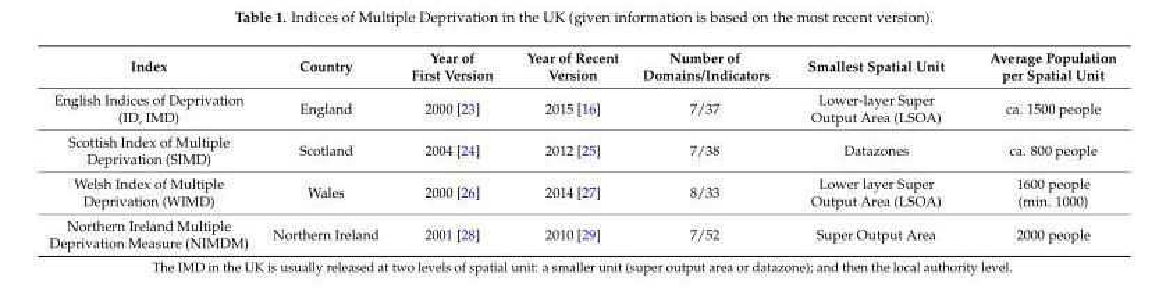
<table><thead><tr><td>Index</td><td>Country</td><td>Year of First Version</td><td>Year of Recent Version</td><td>Number of Domains/Indicators</td><td>Smallest Spatial Unit</td><td>Average Population per Spatial Unit</td></tr></thead><tbody><tr><td>English Indices of Deprivation (ID, IMD)</td><td>England</td><td>2000 [23]</td><td>2015 [16]</td><td>7/37</td><td>Lower-layer Super Output Area (LSOA)</td><td>ca. 1500 people</td></tr><tr><td>Scottish Index of Multiple Deprivation (SIMD)</td><td>Scotland</td><td>2004 [24]</td><td>2012 [25]</td><td>7/38</td><td>Datazones</td><td>ca. 800 people</td></tr><tr><td>Welsh Index of Multiple Deprivation (WIMD)</td><td>Wales</td><td>2000 [26]</td><td>2014 [27]</td><td>8/33</td><td>Lower layer Super Output Area (LSOA)</td><td>1600 people (min. 1000)</td></tr><tr><td>Northern Ireland Multiple Deprivation Measure (NIMDM)</td><td>Northern Ireland</td><td>2001 [28]</td><td>2010 [29]</td><td>7/52</td><td>Super Output Area</td><td>2000 people</td></tr></tbody></table>